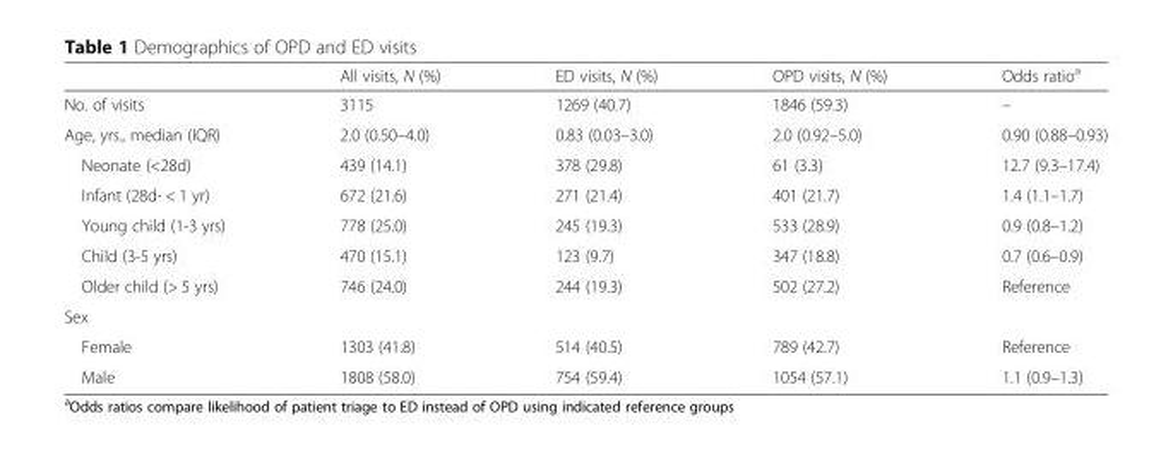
<table><thead><tr><td></td><td>All visits, N (%)</td><td>ED visits, N (%)</td><td>OPD visits, N (%)</td><td>Odds ratio<sup>a</sup></td></tr></thead><tbody><tr><td>No. of visits</td><td>3115</td><td>1269 (40.7)</td><td>1846 (59.3)</td><td>–</td></tr><tr><td>Age, yrs., median (IQR)</td><td>2.0 (0.50–4.0)</td><td>0.83 (0.03–3.0)</td><td>2.0 (0.92–5.0)</td><td>0.90 (0.88–0.93)</td></tr><tr><td>Neonate (&lt;28d)</td><td>439 (14.1)</td><td>378 (29.8)</td><td>61 (3.3)</td><td>12.7 (9.3–17.4)</td></tr><tr><td>Infant (28d- &lt; 1 yr)</td><td>672 (21.6)</td><td>271 (21.4)</td><td>401 (21.7)</td><td>1.4 (1.1–1.7)</td></tr><tr><td>Young child (1-3 yrs)</td><td>778 (25.0)</td><td>245 (19.3)</td><td>533 (28.9)</td><td>0.9 (0.8–1.2)</td></tr><tr><td>Child (3-5 yrs)</td><td>470 (15.1)</td><td>123 (9.7)</td><td>347 (18.8)</td><td>0.7 (0.6–0.9)</td></tr><tr><td>Older child (&gt; 5 yrs)</td><td>746 (24.0)</td><td>244 (19.3)</td><td>502 (27.2)</td><td>Reference</td></tr><tr><td colspan="5">Sex</td></tr><tr><td>Female</td><td>1303 (41.8)</td><td>514 (40.5)</td><td>789 (42.7)</td><td>Reference</td></tr><tr><td>Male</td><td>1808 (58.0)</td><td>754 (59.4)</td><td>1054 (57.1)</td><td>1.1 (0.9–1.3)</td></tr></tbody></table>